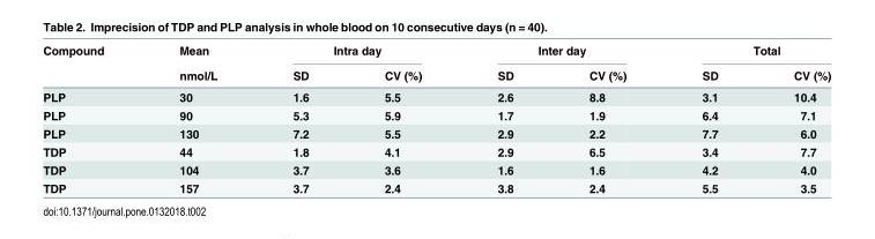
<table><thead><tr><td rowspan="2">Compound</td><td rowspan="2">Mean nmol/L</td><td colspan="2">Intra day</td><td colspan="2">Inter day</td><td colspan="2">Total</td></tr><tr><td>SD</td><td>CV (%)</td><td>SD</td><td>CV (%)</td><td>SD</td><td>CV (%)</td></tr></thead><tbody><tr><td>PLP</td><td>30</td><td>1.6</td><td>5.5</td><td>2.6</td><td>8.8</td><td>3.1</td><td>10.4</td></tr><tr><td>PLP</td><td>90</td><td>5.3</td><td>5.9</td><td>1.7</td><td>1.9</td><td>6.4</td><td>7.1</td></tr><tr><td>PLP</td><td>130</td><td>7.2</td><td>5.5</td><td>2.9</td><td>2.2</td><td>7.7</td><td>6.0</td></tr><tr><td>TDP</td><td>44</td><td>1.8</td><td>4.1</td><td>2.9</td><td>6.5</td><td>3.4</td><td>7.7</td></tr><tr><td>TDP</td><td>104</td><td>3.7</td><td>3.6</td><td>1.6</td><td>1.6</td><td>4.2</td><td>4.0</td></tr><tr><td>TDP</td><td>157</td><td>3.7</td><td>2.4</td><td>3.8</td><td>2.4</td><td>5.5</td><td>3.5</td></tr></tbody></table>